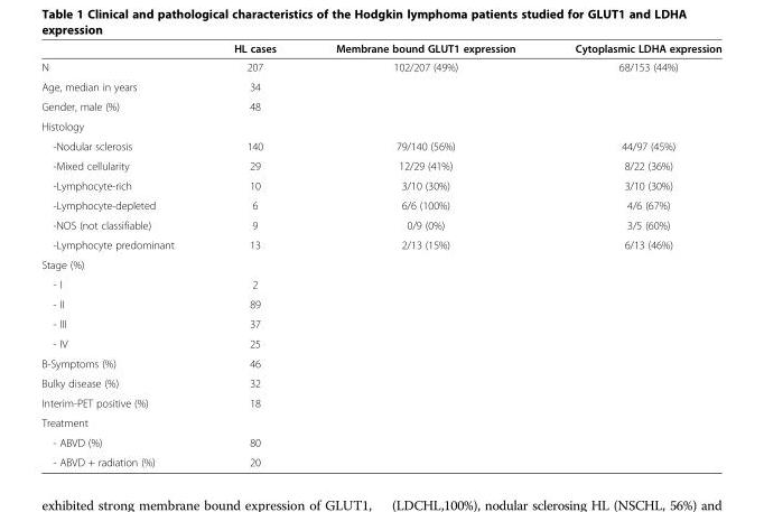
<table><thead><tr><td></td><td>HL cases</td><td>Membrane bound GLUT1 expression</td><td>Cytoplasmic LDHA expression</td></tr></thead><tbody><tr><td>N</td><td>207</td><td>102/207 (49%)</td><td>68/153 (44%)</td></tr><tr><td>Age, median in years</td><td>34</td><td></td><td></td></tr><tr><td>Gender, male (%)</td><td>48</td><td></td><td></td></tr><tr><td colspan="4">Histology</td></tr><tr><td>-Nodular sclerosis</td><td>140</td><td>79/140 (56%)</td><td>44/97 (45%)</td></tr><tr><td>-Mixed cellularity</td><td>29</td><td>12/29 (41%)</td><td>8/22 (36%)</td></tr><tr><td>-Lymphocyte-rich</td><td>10</td><td>3/10 (30%)</td><td>3/10 (30%)</td></tr><tr><td>-Lymphocyte-depleted</td><td>6</td><td>6/6 (100%)</td><td>4/6 (67%)</td></tr><tr><td>-NOS (not classifiable)</td><td>9</td><td>0/9 (0%)</td><td>3/5 (60%)</td></tr><tr><td>-Lymphocyte predominant</td><td>13</td><td>2/13 (15%)</td><td>6/13 (46%)</td></tr><tr><td colspan="4">Stage (%)</td></tr><tr><td>- I</td><td>2</td><td></td><td></td></tr><tr><td>- II</td><td>89</td><td></td><td></td></tr><tr><td>- III</td><td>37</td><td></td><td></td></tr><tr><td>- IV</td><td>25</td><td></td><td></td></tr><tr><td>B-Symptoms (%)</td><td>46</td><td></td><td></td></tr><tr><td>Bulky disease (%)</td><td>32</td><td></td><td></td></tr><tr><td>Interim-PET positive (%)</td><td>18</td><td></td><td></td></tr><tr><td colspan="4">Treatment</td></tr><tr><td>- ABVD (%)</td><td>80</td><td></td><td></td></tr><tr><td>- ABVD + radiation (%)</td><td>20</td><td></td><td></td></tr></tbody></table>